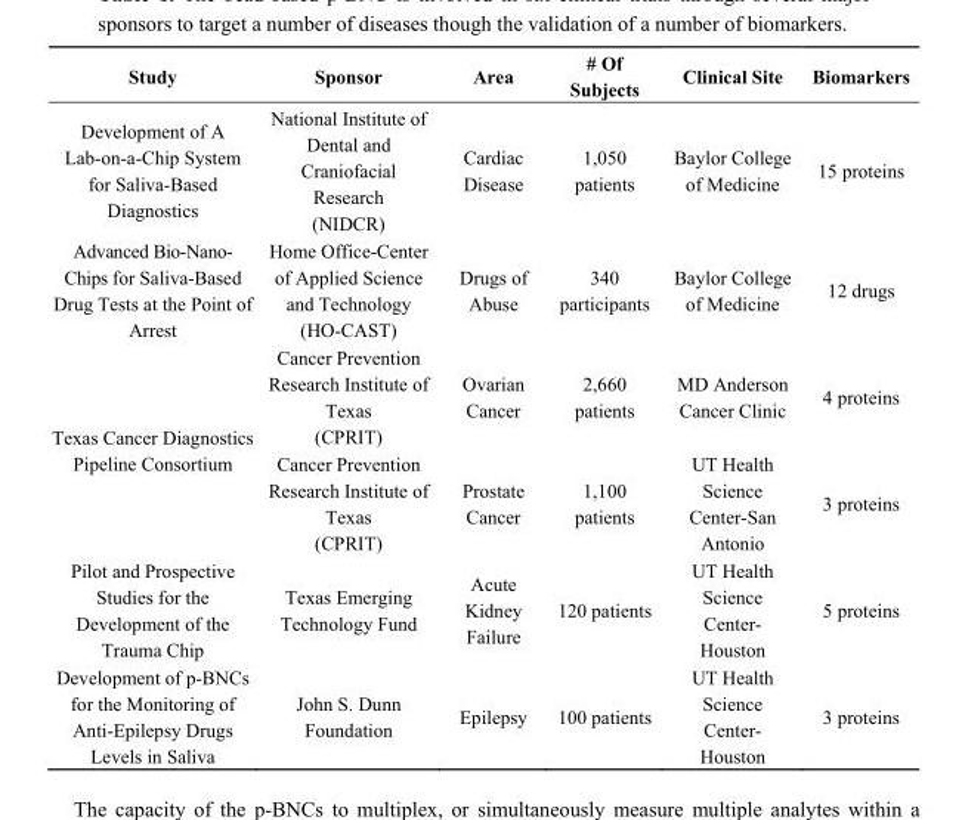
<table><thead><tr><td>Study</td><td>Sponsor</td><td>Area</td><td># Of Subjects</td><td>Clinical Site</td><td>Biomarkers</td></tr></thead><tbody><tr><td>Development of A Lab-on-a-Chip System for Saliva-Based Diagnostics</td><td>National Institute of Dental and Craniofacial Research (NIDCR)</td><td>Cardiac Disease</td><td>1,050 patients</td><td>Baylor College of Medicine</td><td>15 proteins</td></tr><tr><td>Advanced Bio-Nano- Chips for Saliva-Based Drug Tests at the Point of Arrest</td><td>Home Office-Center of Applied Science and Technology (HO-CAST)</td><td>Drugs of Abuse</td><td>340 participants</td><td>Baylor College of Medicine</td><td>12 drugs</td></tr><tr><td rowspan="2">Texas Cancer Diagnostics Pipeline Consortium</td><td>Cancer Prevention Research Institute of Texas (CPRIT)</td><td>Ovarian Cancer</td><td>2,660 patients</td><td>MD Anderson Cancer Clinic</td><td>4 proteins</td></tr><tr><td>Cancer Prevention Research Institute of Texas (CPRIT)</td><td>Prostate Cancer</td><td>1,100 patients</td><td>UT Health Science Center-San Antonio</td><td>3 proteins</td></tr><tr><td>Pilot and Prospective Studies for the Development of the Trauma Chip</td><td>Texas Emerging Technology Fund</td><td>Acute Kidney Failure</td><td>120 patients</td><td>UT Health Science Center- Houston</td><td>5 proteins</td></tr><tr><td>Development of p-BNCs for the Monitoring of Anti-Epilepsy Drugs Levels in Saliva</td><td>John S. Dunn Foundation</td><td>Epilepsy</td><td>100 patients</td><td>UT Health Science Center- Houston</td><td>3 proteins</td></tr></tbody></table>